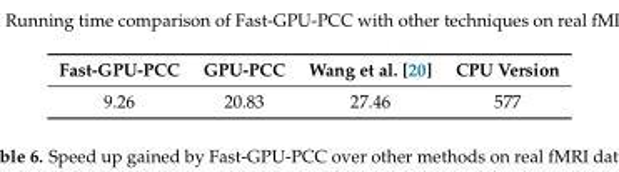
<table><thead><tr><td>Fast-GPU-PCC</td><td>GPU-PCC</td><td>Wang et al. [20]</td><td>CPU Version</td></tr></thead><tbody><tr><td>9.26</td><td>20.83</td><td>27.46</td><td>577</td></tr></tbody></table>